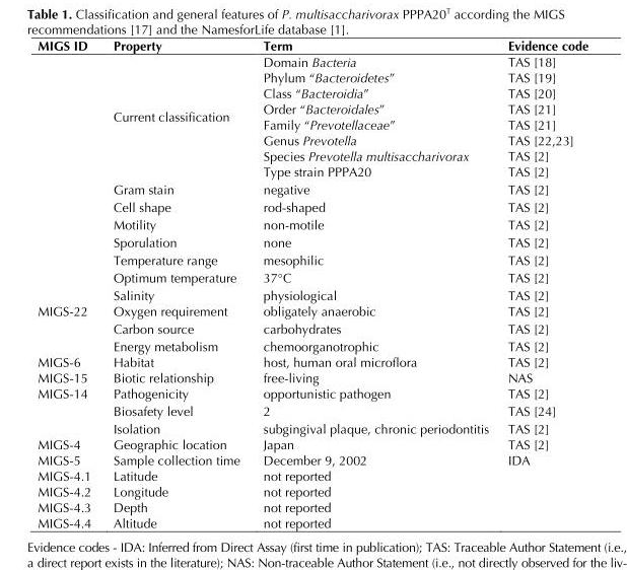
<table><thead><tr><td>MIGS ID</td><td>Property</td><td>Term</td><td>Evidence code</td></tr></thead><tbody><tr><td rowspan="8"></td><td rowspan="8">Current classification</td><td>Domain Bacteria</td><td>TAS [18]</td></tr><tr><td>Phylum “Bacteroidetes”</td><td>TAS [19]</td></tr><tr><td>Class “Bacteroidia”</td><td>TAS [20]</td></tr><tr><td>Order “Bacteroidales”</td><td>TAS [21]</td></tr><tr><td>Family “Prevotellaceae”</td><td>TAS [21]</td></tr><tr><td>Genus Prevotella</td><td>TAS [22,23]</td></tr><tr><td>Species Prevotella multisaccharivorax</td><td>TAS [2]</td></tr><tr><td>Type strain PPPA20</td><td>TAS [2]</td></tr><tr><td></td><td>Gram stain</td><td>negative</td><td>TAS [2]</td></tr><tr><td></td><td>Cell shape</td><td>rod-shaped</td><td>TAS [2]</td></tr><tr><td></td><td>Motility</td><td>non-motile</td><td>TAS [2]</td></tr><tr><td></td><td>Sporulation</td><td>none</td><td>TAS [2]</td></tr><tr><td></td><td>Temperature range</td><td>mesophilic</td><td>TAS [2]</td></tr><tr><td></td><td>Optimum temperature</td><td>37°C</td><td>TAS [2]</td></tr><tr><td></td><td>Salinity</td><td>physiological</td><td>TAS [2]</td></tr><tr><td rowspan="3">MIGS-22</td><td>Oxygen requirement</td><td>obligately anaerobic</td><td>TAS [2]</td></tr><tr><td>Carbon source</td><td>carbohydrates</td><td>TAS [2]</td></tr><tr><td>Energy metabolism</td><td>chemoorganotrophic</td><td>TAS [2]</td></tr><tr><td>MIGS-6</td><td>Habitat</td><td>host, human oral microflora</td><td>TAS [2]</td></tr><tr><td>MIGS-15</td><td>Biotic relationship</td><td>free-living</td><td>NAS</td></tr><tr><td rowspan="3">MIGS-14</td><td>Pathogenicity</td><td>opportunistic pathogen</td><td>TAS [2]</td></tr><tr><td>Biosafety level</td><td>2</td><td>TAS [24]</td></tr><tr><td>Isolation</td><td>subgingival plaque, chronic periodontitis</td><td>TAS [2]</td></tr><tr><td>MIGS-4</td><td>Geographic location</td><td>Japan</td><td>TAS [2]</td></tr><tr><td>MIGS-5</td><td>Sample collection time</td><td>December 9, 2002</td><td>IDA</td></tr><tr><td>MIGS-4.1</td><td>Latitude</td><td>not reported</td><td></td></tr><tr><td>MIGS-4.2</td><td>Longitude</td><td>not reported</td><td></td></tr><tr><td>MIGS-4.3</td><td>Depth</td><td>not reported</td><td></td></tr><tr><td>MIGS-4.4</td><td>Altitude</td><td>not reported</td><td></td></tr></tbody></table>